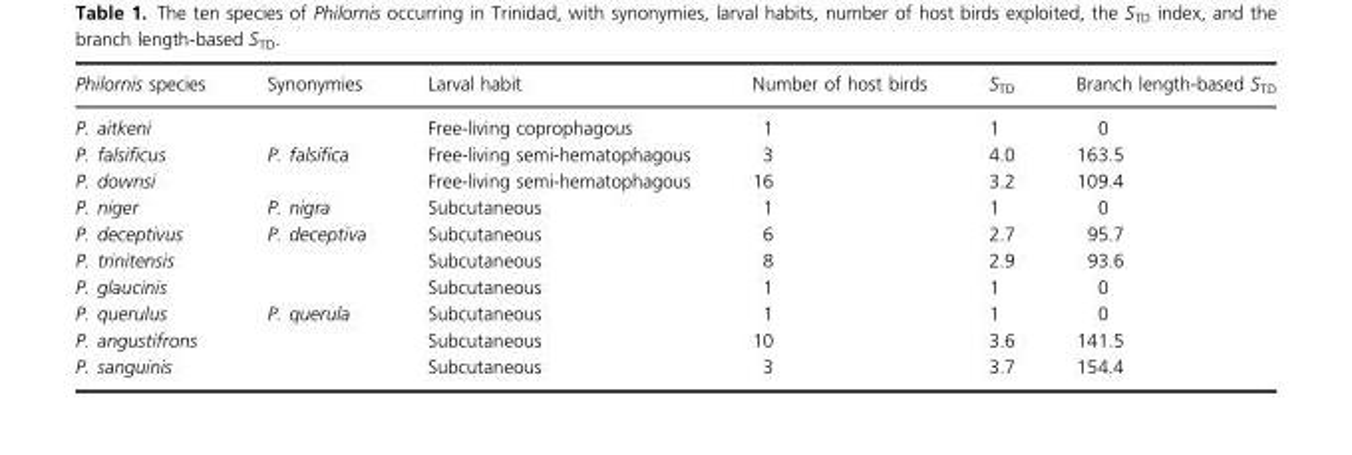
<table><thead><tr><td>Philornis species</td><td>Synonymies</td><td>Larval habit</td><td>Number of host birds</td><td>S<sub>TD</sub></td><td>Branch length-based S<sub>TD</sub></td></tr></thead><tbody><tr><td>P. aitkeni</td><td></td><td>Free-living coprophagous</td><td>1</td><td>1</td><td>0</td></tr><tr><td>P. falsificus</td><td>P. falsifica</td><td>Free-living semi-hematophagous</td><td>3</td><td>4.0</td><td>163.5</td></tr><tr><td>P. downsi</td><td></td><td>Free-living semi-hematophagous</td><td>16</td><td>3.2</td><td>109.4</td></tr><tr><td>P. niger</td><td>P. nigra</td><td>Subcutaneous</td><td>1</td><td>1</td><td>0</td></tr><tr><td>P. deceptivus</td><td>P. deceptiva</td><td>Subcutaneous</td><td>6</td><td>2.7</td><td>95.7</td></tr><tr><td>P. trinitensis</td><td></td><td>Subcutaneous</td><td>8</td><td>2.9</td><td>93.6</td></tr><tr><td>P. glaucinis</td><td></td><td>Subcutaneous</td><td>1</td><td>1</td><td>0</td></tr><tr><td>P. querulus</td><td>P. querula</td><td>Subcutaneous</td><td>1</td><td>1</td><td>0</td></tr><tr><td>P. angustifrons</td><td></td><td>Subcutaneous</td><td>10</td><td>3.6</td><td>141.5</td></tr><tr><td>P. sanguinis</td><td></td><td>Subcutaneous</td><td>3</td><td>3.7</td><td>154.4</td></tr></tbody></table>